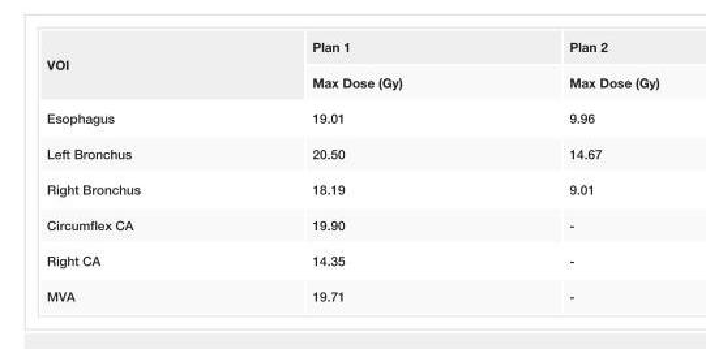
<table><tbody><tr><td rowspan="2">VOI</td><td>Plan 1</td><td>Plan 2</td></tr><tr><td>Max Dose (Gy)</td><td>Max Dose (Gy)</td></tr><tr><td>Esophagus</td><td>19.01</td><td>9.96</td></tr><tr><td>Left Bronchus</td><td>20.50</td><td>14.67</td></tr><tr><td>Right Bronchus</td><td>18.19</td><td>9.01</td></tr><tr><td>Circumflex CA</td><td>19.90</td><td>-</td></tr><tr><td>Right CA</td><td>14.35</td><td>-</td></tr><tr><td>MVA</td><td>19.71</td><td>-</td></tr></tbody></table>